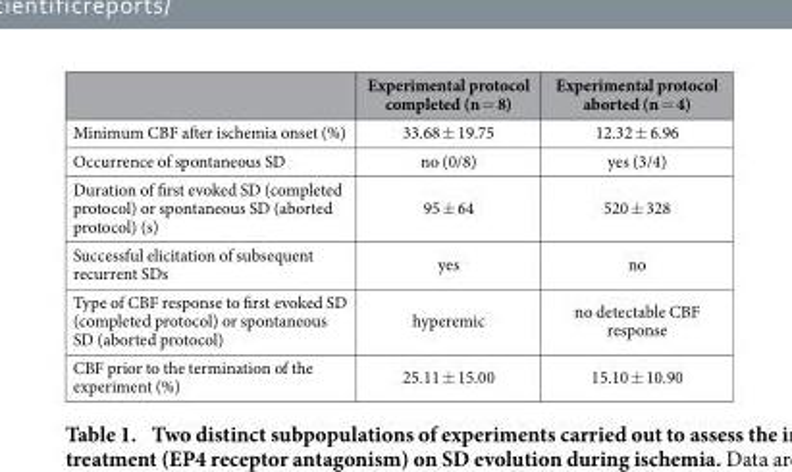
<table><thead><tr><td></td><td>Experimental protocol completed (n = 8)</td><td>Experimental protocol aborted (n = 4)</td></tr></thead><tbody><tr><td>Minimum CBF after ischemia onset (%)</td><td>33.68 ± 19.75</td><td>12.32 ± 6.96</td></tr><tr><td>Occurrence of spontaneous SD</td><td>no (0/8)</td><td>yes (3/4)</td></tr><tr><td>Duration of first evoked SD (completed protocol) or spontaneous SD (aborted protocol) (s)</td><td>95 ± 64</td><td>520 ± 328</td></tr><tr><td>Successful elicitation of subsequent recurrent SDs</td><td>yes</td><td>no</td></tr><tr><td>Type of CBF response to first evoked SD (completed protocol) or spontaneous SD (aborted protocol)</td><td>hyperemic</td><td>no detectable CBF response</td></tr><tr><td>CBF prior to the termination of the experiment (%)</td><td>25.11 ± 15.00</td><td>15.10 ± 10.90</td></tr></tbody></table>